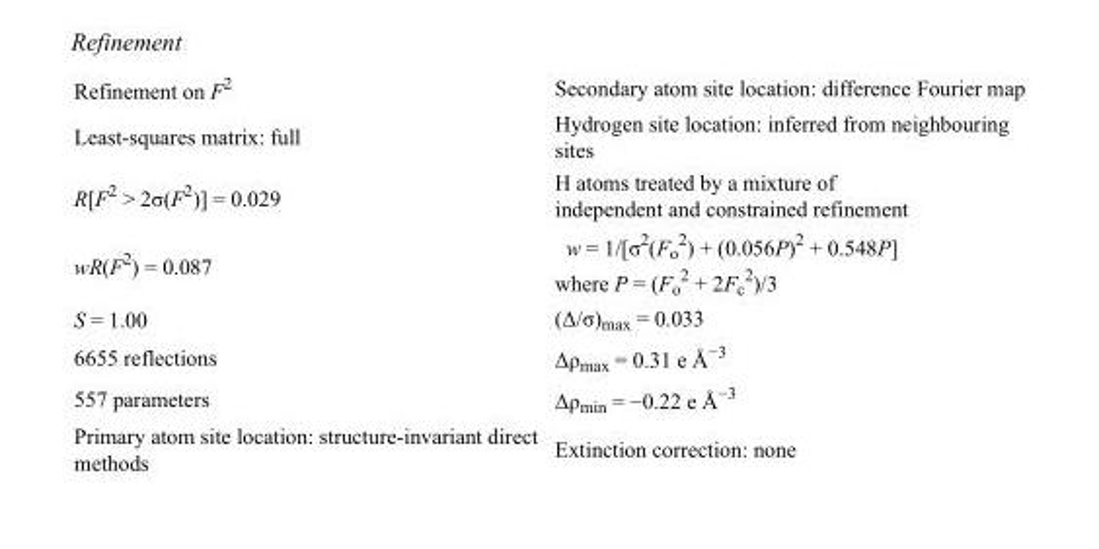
<table><tbody><tr><td>Refinement on F<sup>2</sup></td><td>Secondary atom site location: difference Fourier map</td></tr><tr><td>Least-squares matrix: full</td><td>Hydrogen site location: inferred from neighbouring sites</td></tr><tr><td>R[F<sup>2</sup> &gt; 2σ(F<sup>2</sup>)] = 0.029</td><td>H atoms treated by a mixture of independent and constrained refinement</td></tr><tr><td>wR(F<sup>2</sup>) = 0.087</td><td>w = 1/[σ<sup>2</sup>(F<sub>o</sub> <sup>2</sup>) + (0.056P)<sup>2</sup> + 0.548P] where P = (F<sub>o</sub> <sup>2</sup> + 2F<sub>c</sub> <sup>2</sup>)/3</td></tr><tr><td>S = 1.00</td><td>(Δ/σ)<sub>max</sub> = 0.033</td></tr><tr><td>6655 reflections</td><td>Δρ<sub>max</sub> = 0.31 e Å<sup>−3</sup></td></tr><tr><td>557 parameters</td><td>Δρ<sub>min</sub> = −0.22 e Å<sup>−3</sup></td></tr><tr><td>Primary atom site location: structure-invariant direct methods</td><td>Extinction correction: none</td></tr></tbody></table>